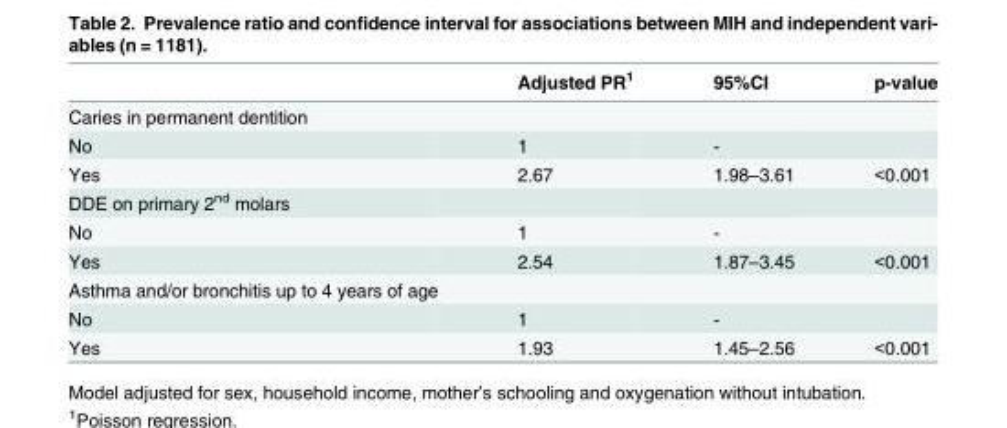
<table><thead><tr><td></td><td>Adjusted PR<sup>1</sup></td><td>95%CI</td><td>p-value</td></tr></thead><tbody><tr><td colspan="4">Caries in permanent dentition</td></tr><tr><td>No</td><td>1</td><td>-</td><td></td></tr><tr><td>Yes</td><td>2.67</td><td>1.98–3.61</td><td>&lt;0.001</td></tr><tr><td colspan="4">DDE on primary 2<sup>nd</sup> molars</td></tr><tr><td>No</td><td>1</td><td>-</td><td></td></tr><tr><td>Yes</td><td>2.54</td><td>1.87–3.45</td><td>&lt;0.001</td></tr><tr><td colspan="4">Asthma and/or bronchitis up to 4 years of age</td></tr><tr><td>No</td><td>1</td><td>-</td><td></td></tr><tr><td>Yes</td><td>1.93</td><td>1.45–2.56</td><td>&lt;0.001</td></tr></tbody></table>